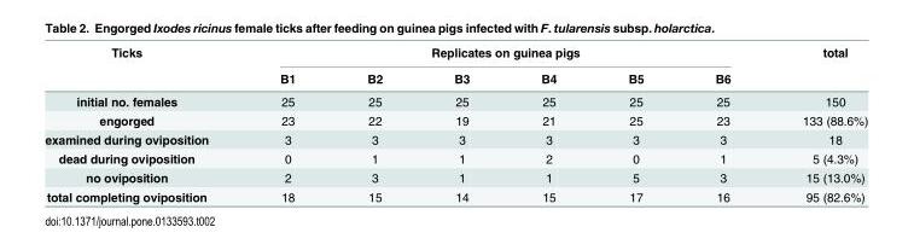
<table><thead><tr><td rowspan="2">Ticks</td><td colspan="6">Replicates on guinea pigs</td><td rowspan="2">total</td></tr><tr><td>B1</td><td>B2</td><td>B3</td><td>B4</td><td>B5</td><td>B6</td></tr></thead><tbody><tr><td>initial no. females</td><td>25</td><td>25</td><td>25</td><td>25</td><td>25</td><td>25</td><td>150</td></tr><tr><td>engorged</td><td>23</td><td>22</td><td>19</td><td>21</td><td>25</td><td>23</td><td>133 (88.6%)</td></tr><tr><td>examined during oviposition</td><td>3</td><td>3</td><td>3</td><td>3</td><td>3</td><td>3</td><td>18</td></tr><tr><td>dead during oviposition</td><td>0</td><td>1</td><td>1</td><td>2</td><td>0</td><td>1</td><td>5 (4.3%)</td></tr><tr><td>no oviposition</td><td>2</td><td>3</td><td>1</td><td>1</td><td>5</td><td>3</td><td>15 (13.0%)</td></tr><tr><td>total completing oviposition</td><td>18</td><td>15</td><td>14</td><td>15</td><td>17</td><td>16</td><td>95 (82.6%)</td></tr></tbody></table>